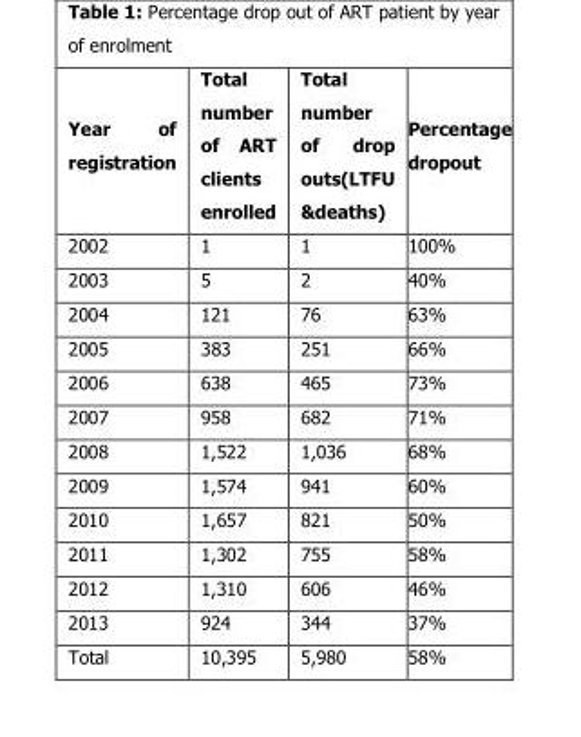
<table><thead><tr><td>Year of registration</td><td>Total number of ART clients enrolled</td><td>Total number of drop outs(LTFU &amp;deaths)</td><td>Percentage dropout</td></tr></thead><tbody><tr><td>2002</td><td>1</td><td>1</td><td>100%</td></tr><tr><td>2003</td><td>5</td><td>2</td><td>40%</td></tr><tr><td>2004</td><td>121</td><td>76</td><td>63%</td></tr><tr><td>2005</td><td>383</td><td>251</td><td>66%</td></tr><tr><td>2006</td><td>638</td><td>465</td><td>73%</td></tr><tr><td>2007</td><td>958</td><td>682</td><td>71%</td></tr><tr><td>2008</td><td>1,522</td><td>1,036</td><td>68%</td></tr><tr><td>2009</td><td>1,574</td><td>941</td><td>60%</td></tr><tr><td>2010</td><td>1,657</td><td>821</td><td>50%</td></tr><tr><td>2011</td><td>1,302</td><td>755</td><td>58%</td></tr><tr><td>2012</td><td>1,310</td><td>606</td><td>46%</td></tr><tr><td>2013</td><td>924</td><td>344</td><td>37%</td></tr><tr><td>Total</td><td>10,395</td><td>5,980</td><td>58%</td></tr></tbody></table>